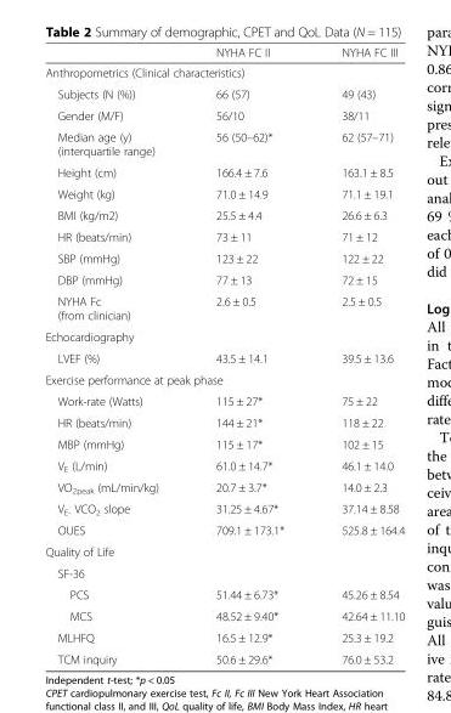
<table><thead><tr><td></td><td>NYHA FC II</td><td>NYHA FC III</td></tr></thead><tbody><tr><td colspan="3">Anthropometrics (Clinical characteristics)</td></tr><tr><td>Subjects (N (%))</td><td>66 (57)</td><td>49 (43)</td></tr><tr><td>Gender (M/F)</td><td>56/10</td><td>38/11</td></tr><tr><td>Median age (y) (interquartile range)</td><td>56 (50–62)*</td><td>62 (57–71)</td></tr><tr><td>Height (cm)</td><td>166.4 ± 7.6</td><td>163.1 ± 8.5</td></tr><tr><td>Weight (kg)</td><td>71.0 ± 14.9</td><td>71.1 ± 19.1</td></tr><tr><td>BMI (kg/m2)</td><td>25.5 ± 4.4</td><td>26.6 ± 6.3</td></tr><tr><td>HR (beats/min)</td><td>73 ± 11</td><td>71 ± 12</td></tr><tr><td>SBP (mmHg)</td><td>123 ± 22</td><td>122 ± 22</td></tr><tr><td>DBP (mmHg)</td><td>77 ± 13</td><td>72 ± 15</td></tr><tr><td>NYHA Fc (from clinician)</td><td>2.6 ± 0.5</td><td>2.5 ± 0.5</td></tr><tr><td colspan="3">Echocardiography</td></tr><tr><td>LVEF (%)</td><td>43.5 ± 14.1</td><td>39.5 ± 13.6</td></tr><tr><td colspan="3">Exercise performance at peak phase</td></tr><tr><td>Work-rate (Watts)</td><td>115 ± 27*</td><td>75 ± 22</td></tr><tr><td>HR (beats/min)</td><td>144 ± 21*</td><td>118 ± 22</td></tr><tr><td>MBP (mmHg)</td><td>115 ± 17*</td><td>102 ± 15</td></tr><tr><td>V<sub>E</sub> (L/min)</td><td>61.0 ± 14.7*</td><td>46.1 ± 14.0</td></tr><tr><td>VO<sub>2peak</sub> (mL/min/kg)</td><td>20.7 ± 3.7*</td><td>14.0 ± 2.3</td></tr><tr><td>V<sub>E-</sub> VCO<sub>2</sub> slope</td><td>31.25 ± 4.67*</td><td>37.14 ± 8.58</td></tr><tr><td>OUES</td><td>709.1 ± 173.1*</td><td>525.8 ± 164.4</td></tr><tr><td colspan="3">Quality of Life</td></tr><tr><td colspan="3">SF-36</td></tr><tr><td>PCS</td><td>51.44 ± 6.73*</td><td>45.26 ± 8.54</td></tr><tr><td>MCS</td><td>48.52 ± 9.40*</td><td>42.64 ± 11.10</td></tr><tr><td>MLHFQ</td><td>16.5 ± 12.9*</td><td>25.3 ± 19.2</td></tr><tr><td>TCM inquiry</td><td>50.6 ± 29.6*</td><td>76.0 ± 53.2</td></tr></tbody></table>